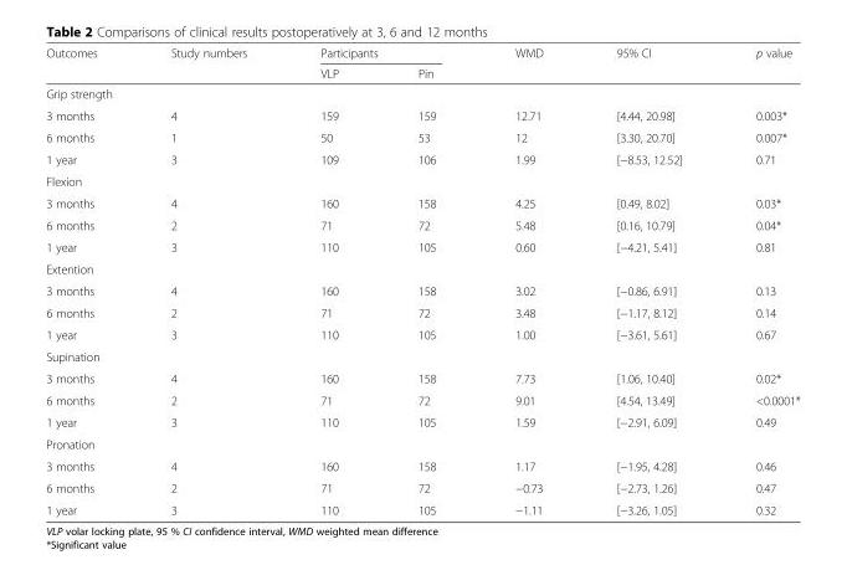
<table><thead><tr><td rowspan="2">Outcomes</td><td rowspan="2">Study numbers</td><td colspan="2">Participants</td><td rowspan="2">WMD</td><td rowspan="2">95% CI</td><td rowspan="2">p value</td></tr><tr><td>VLP</td><td>Pin</td></tr></thead><tbody><tr><td colspan="7">Grip strength</td></tr><tr><td>3 months</td><td>4</td><td>159</td><td>159</td><td>12.71</td><td>[4.44, 20.98]</td><td>0.003*</td></tr><tr><td>6 months</td><td>1</td><td>50</td><td>53</td><td>12</td><td>[3.30, 20.70]</td><td>0.007*</td></tr><tr><td>1 year</td><td>3</td><td>109</td><td>106</td><td>1.99</td><td>[−8.53, 12.52]</td><td>0.71</td></tr><tr><td colspan="7">Flexion</td></tr><tr><td>3 months</td><td>4</td><td>160</td><td>158</td><td>4.25</td><td>[0.49, 8.02]</td><td>0.03*</td></tr><tr><td>6 months</td><td>2</td><td>71</td><td>72</td><td>5.48</td><td>[0.16, 10.79]</td><td>0.04*</td></tr><tr><td>1 year</td><td>3</td><td>110</td><td>105</td><td>0.60</td><td>[−4.21, 5.41]</td><td>0.81</td></tr><tr><td colspan="7">Extention</td></tr><tr><td>3 months</td><td>4</td><td>160</td><td>158</td><td>3.02</td><td>[−0.86, 6.91]</td><td>0.13</td></tr><tr><td>6 months</td><td>2</td><td>71</td><td>72</td><td>3.48</td><td>[−1.17, 8.12]</td><td>0.14</td></tr><tr><td>1 year</td><td>3</td><td>110</td><td>105</td><td>1.00</td><td>[−3.61, 5.61]</td><td>0.67</td></tr><tr><td colspan="7">Supination</td></tr><tr><td>3 months</td><td>4</td><td>160</td><td>158</td><td>7.73</td><td>[1.06, 10.40]</td><td>0.02*</td></tr><tr><td>6 months</td><td>2</td><td>71</td><td>72</td><td>9.01</td><td>[4.54, 13.49]</td><td>&lt;0.0001*</td></tr><tr><td>1 year</td><td>3</td><td>110</td><td>105</td><td>1.59</td><td>[−2.91, 6.09]</td><td>0.49</td></tr><tr><td colspan="7">Pronation</td></tr><tr><td>3 months</td><td>4</td><td>160</td><td>158</td><td>1.17</td><td>[−1.95, 4.28]</td><td>0.46</td></tr><tr><td>6 months</td><td>2</td><td>71</td><td>72</td><td>−0.73</td><td>[−2.73, 1.26]</td><td>0.47</td></tr><tr><td>1 year</td><td>3</td><td>110</td><td>105</td><td>−1.11</td><td>[−3.26, 1.05]</td><td>0.32</td></tr></tbody></table>